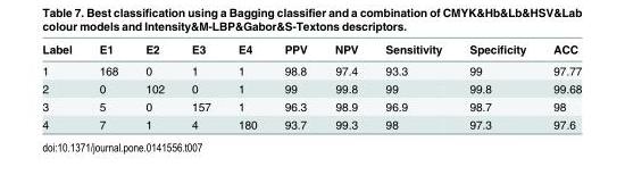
<table><thead><tr><td>Label</td><td>E1</td><td>E2</td><td>E3</td><td>E4</td><td>PPV</td><td>NPV</td><td>Sensitivity</td><td>Specificity</td><td>ACC</td></tr></thead><tbody><tr><td>1</td><td>168</td><td>0</td><td>1</td><td>1</td><td>98.8</td><td>97.4</td><td>93.3</td><td>99</td><td>97.77</td></tr><tr><td>2</td><td>0</td><td>102</td><td>0</td><td>1</td><td>99</td><td>99.8</td><td>99</td><td>99.8</td><td>99.68</td></tr><tr><td>3</td><td>5</td><td>0</td><td>157</td><td>1</td><td>96.3</td><td>98.9</td><td>96.9</td><td>98.7</td><td>98</td></tr><tr><td>4</td><td>7</td><td>1</td><td>4</td><td>180</td><td>93.7</td><td>99.3</td><td>98</td><td>97.3</td><td>97.6</td></tr></tbody></table>